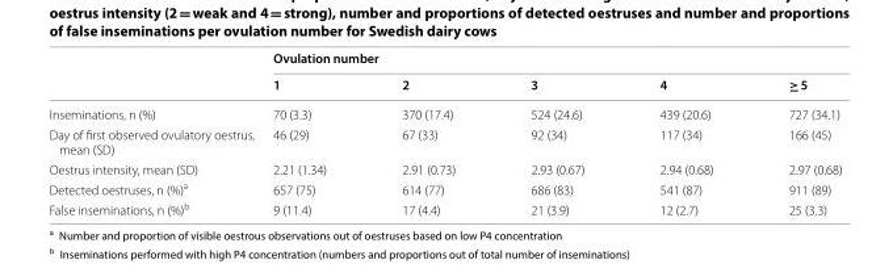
<table><thead><tr><td rowspan="2"></td><td colspan="5">Ovulation number</td></tr><tr><td>1</td><td>2</td><td>3</td><td>4</td><td>≥ 5</td></tr></thead><tbody><tr><td>Inseminations, n (%)</td><td>70 (3.3)</td><td>370 (17.4)</td><td>524 (24.6)</td><td>439 (20.6)</td><td>727 (34.1)</td></tr><tr><td>Day of first observed ovulatory oestrus, mean (SD)</td><td>46 (29)</td><td>67 (33)</td><td>92 (34)</td><td>117 (34)</td><td>166 (45)</td></tr><tr><td>Oestrus intensity, mean (SD)</td><td>2.21 (1.34)</td><td>2.91 (0.73)</td><td>2.93 (0.67)</td><td>2.94 (0.68)</td><td>2.97 (0.68)</td></tr><tr><td>Detected oestruses, n (%)<sup>a</sup></td><td>657 (75)</td><td>614 (77)</td><td>686 (83)</td><td>541 (87)</td><td>911 (89)</td></tr><tr><td>False inseminations, n (%)<sup>b</sup></td><td>9 (11.4)</td><td>17 (4.4)</td><td>21 (3.9)</td><td>12 (2.7)</td><td>25 (3.3)</td></tr></tbody></table>